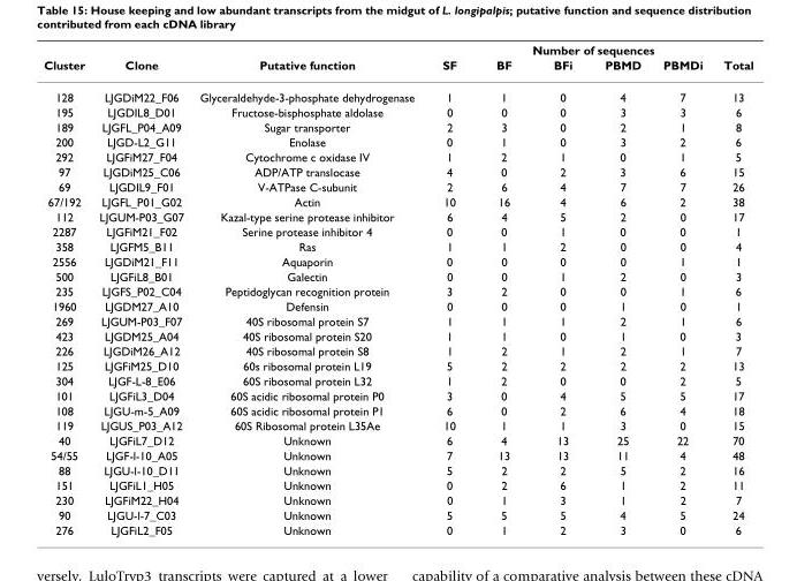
<table><thead><tr><td rowspan="2">Cluster</td><td rowspan="2">Clone</td><td rowspan="2">Putative function</td><td colspan="6">Number of sequences</td></tr><tr><td>SF</td><td>BF</td><td>BFi</td><td>PBMD</td><td>PBMDi</td><td>Total</td></tr></thead><tbody><tr><td>128</td><td>LJGDiM22_F06</td><td>Glyceraldehyde-3-phosphate dehydrogenase</td><td>1</td><td>1</td><td>0</td><td>4</td><td>7</td><td>13</td></tr><tr><td>195</td><td>LJGDIL8_D01</td><td>Fructose-bisphosphate aldolase</td><td>0</td><td>0</td><td>0</td><td>3</td><td>3</td><td>6</td></tr><tr><td>189</td><td>LJGFL_P04_A09</td><td>Sugar transporter</td><td>2</td><td>3</td><td>0</td><td>2</td><td>1</td><td>8</td></tr><tr><td>200</td><td>LJGD-L2_G11</td><td>Enolase</td><td>0</td><td>1</td><td>0</td><td>3</td><td>2</td><td>6</td></tr><tr><td>292</td><td>LJGFiM27_F04</td><td>Cytochrome c oxidase IV</td><td>1</td><td>2</td><td>1</td><td>0</td><td>1</td><td>5</td></tr><tr><td>97</td><td>LJGDiM25_C06</td><td>ADP/ATP translocase</td><td>4</td><td>0</td><td>2</td><td>3</td><td>6</td><td>15</td></tr><tr><td>69</td><td>LJGDIL9_F01</td><td>V-ATPase C-subunit</td><td>2</td><td>6</td><td>4</td><td>7</td><td>7</td><td>26</td></tr><tr><td>67/192</td><td>LJGFL_P01_G02</td><td>Actin</td><td>10</td><td>16</td><td>4</td><td>6</td><td>2</td><td>38</td></tr><tr><td>112</td><td>LJGUM-P03_G07</td><td>Kazal-type serine protease inhibitor</td><td>6</td><td>4</td><td>5</td><td>2</td><td>0</td><td>17</td></tr><tr><td>2287</td><td>LJGFiM21_F02</td><td>Serine protease inhibitor 4</td><td>0</td><td>0</td><td>1</td><td>0</td><td>0</td><td>1</td></tr><tr><td>358</td><td>LJGFM5_B11</td><td>Ras</td><td>1</td><td>1</td><td>2</td><td>0</td><td>0</td><td>4</td></tr><tr><td>2556</td><td>LJGDiM21_F11</td><td>Aquaporin</td><td>0</td><td>0</td><td>0</td><td>0</td><td>1</td><td>1</td></tr><tr><td>500</td><td>LJGFiL8_B01</td><td>Galectin</td><td>0</td><td>0</td><td>1</td><td>2</td><td>0</td><td>3</td></tr><tr><td>235</td><td>LJGFS_P02_C04</td><td>Peptidoglycan recognition protein</td><td>3</td><td>2</td><td>0</td><td>0</td><td>1</td><td>6</td></tr><tr><td>1960</td><td>LJGDM27_A10</td><td>Defensin</td><td>0</td><td>0</td><td>0</td><td>1</td><td>0</td><td>1</td></tr><tr><td>269</td><td>LJGUM-P03_F07</td><td>40S ribosomal protein S7</td><td>1</td><td>1</td><td>1</td><td>2</td><td>1</td><td>6</td></tr><tr><td>423</td><td>LJGDM25_A04</td><td>40S ribosomal protein S20</td><td>1</td><td>1</td><td>0</td><td>1</td><td>0</td><td>3</td></tr><tr><td>226</td><td>LJGDiM26_A12</td><td>40S ribosomal protein S8</td><td>1</td><td>2</td><td>1</td><td>2</td><td>1</td><td>7</td></tr><tr><td>125</td><td>LJGFiM25_D10</td><td>60s ribosomal protein L19</td><td>5</td><td>2</td><td>2</td><td>2</td><td>2</td><td>13</td></tr><tr><td>304</td><td>LJGF-L-8_E06</td><td>60S ribosomal protein L32</td><td>1</td><td>2</td><td>0</td><td>0</td><td>2</td><td>5</td></tr><tr><td>101</td><td>LJGFiL3_D04</td><td>60S acidic ribosomal protein P0</td><td>3</td><td>0</td><td>4</td><td>5</td><td>5</td><td>17</td></tr><tr><td>108</td><td>LJGU-m-5_A09</td><td>60S acidic ribosomal protein P1</td><td>6</td><td>0</td><td>2</td><td>6</td><td>4</td><td>18</td></tr><tr><td>119</td><td>LJGUS_P03_A12</td><td>60S Ribosomal protein L35Ae</td><td>10</td><td>1</td><td>1</td><td>3</td><td>0</td><td>15</td></tr><tr><td>40</td><td>LJGFiL7_D12</td><td>Unknown</td><td>6</td><td>4</td><td>13</td><td>25</td><td>22</td><td>70</td></tr><tr><td>54/55</td><td>LJGF-l-10_A05</td><td>Unknown</td><td>7</td><td>13</td><td>13</td><td>11</td><td>4</td><td>48</td></tr><tr><td>88</td><td>LJGU-l-10_D11</td><td>Unknown</td><td>5</td><td>2</td><td>2</td><td>5</td><td>2</td><td>16</td></tr><tr><td>151</td><td>LJGFiL1_H05</td><td>Unknown</td><td>0</td><td>2</td><td>6</td><td>1</td><td>2</td><td>11</td></tr><tr><td>230</td><td>LJGFiM22_H04</td><td>Unknown</td><td>0</td><td>1</td><td>3</td><td>1</td><td>2</td><td>7</td></tr><tr><td>90</td><td>LJGU-l-7_C03</td><td>Unknown</td><td>5</td><td>5</td><td>5</td><td>4</td><td>5</td><td>24</td></tr><tr><td>276</td><td>LJGFiL2_F05</td><td>Unknown</td><td>0</td><td>1</td><td>2</td><td>3</td><td>0</td><td>6</td></tr></tbody></table>